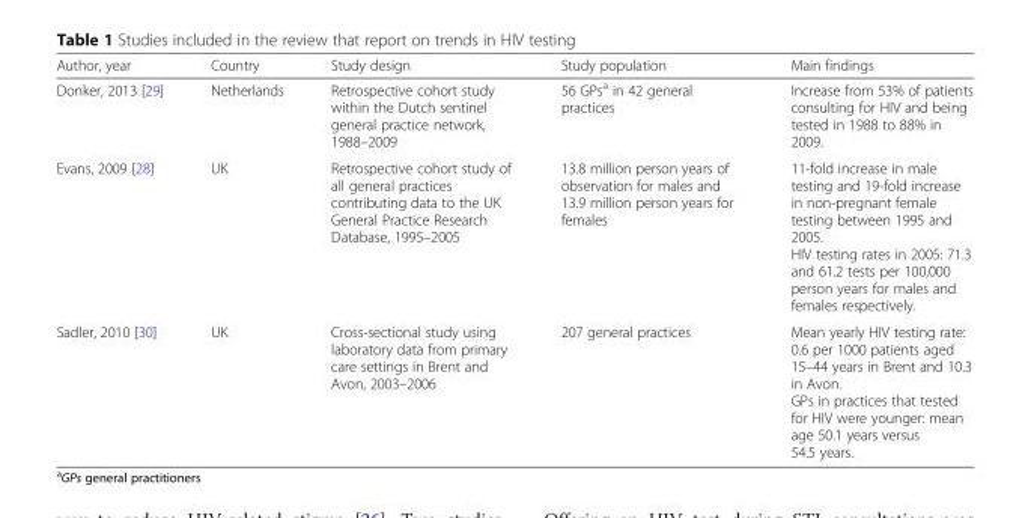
<table><thead><tr><td>Author, year</td><td>Country</td><td>Study design</td><td>Study population</td><td>Main findings</td></tr></thead><tbody><tr><td>Donker, 2013 [29]</td><td>Netherlands</td><td>Retrospective cohort study within the Dutch sentinel general practice network, 1988–2009</td><td>56 GPs<sup>a</sup> in 42 general practices</td><td>Increase from 53% of patients consulting for HIV and being tested in 1988 to 88% in 2009.</td></tr><tr><td>Evans, 2009 [28]</td><td>UK</td><td>Retrospective cohort study of all general practices contributing data to the UK General Practice Research Database, 1995–2005</td><td>13.8 million person years of observation for males and 13.9 million person years for females</td><td>11-fold increase in male testing and 19-fold increase in non-pregnant female testing between 1995 and 2005. HIV testing rates in 2005: 71.3 and 61.2 tests per 100,000 person years for males and females respectively.</td></tr><tr><td>Sadler, 2010 [30]</td><td>UK</td><td>Cross-sectional study using laboratory data from primary care settings in Brent and Avon, 2003–2006</td><td>207 general practices</td><td>Mean yearly HIV testing rate: 0.6 per 1000 patients aged 15–44 years in Brent and 10.3 in Avon. GPs in practices that tested for HIV were younger: mean age 50.1 years versus 54.5 years.</td></tr></tbody></table>